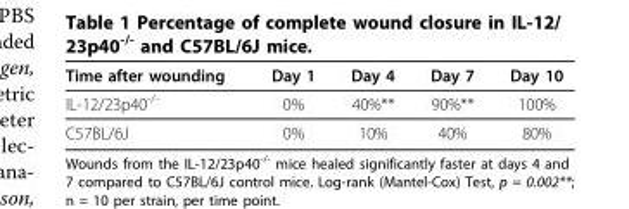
<table><thead><tr><td>Time after wounding</td><td>Day 1</td><td>Day 4</td><td>Day 7</td><td>Day 10</td></tr></thead><tbody><tr><td>IL-12/23p40<sup>-/-</sup></td><td>0%</td><td>40%**</td><td>90%**</td><td>100%</td></tr><tr><td>C57BL/6J</td><td>0%</td><td>10%</td><td>40%</td><td>80%</td></tr></tbody></table>